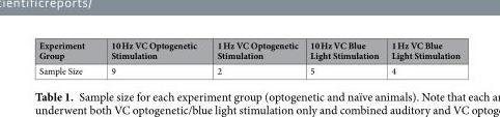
<table><thead><tr><td>Experiment Group</td><td>10 Hz VC Optogenetic Stimulation</td><td>1 Hz VC Optogenetic Stimulation</td><td>10 Hz VC Blue Light Stimulation</td><td>1 Hz VC Blue Light Stimulation</td></tr></thead><tbody><tr><td>Sample Size</td><td>9</td><td>2</td><td>5</td><td>4</td></tr></tbody></table>